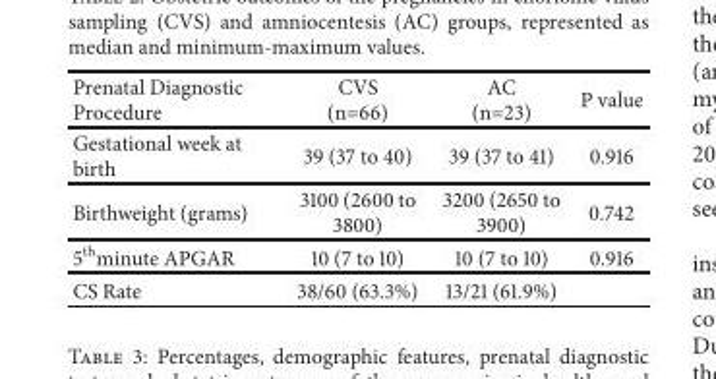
<table><thead><tr><td>Prenatal Diagnostic Procedure</td><td>CVS (n=66)</td><td>AC (n=23)</td><td>P value</td></tr></thead><tbody><tr><td>Gestational week at birth</td><td>39 (37 to 40)</td><td>39 (37 to 41)</td><td>0.916</td></tr><tr><td>Birthweight (grams)</td><td>3100 (2600 to 3800)</td><td>3200 (2650 to 3900)</td><td>0.742</td></tr><tr><td>5<sup>th</sup>minute APGAR</td><td>10 (7 to 10)</td><td>10 (7 to 10)</td><td>0.916</td></tr><tr><td>CS Rate</td><td>38/60 (63.3%)</td><td>13/21 (61.9%)</td><td></td></tr></tbody></table>